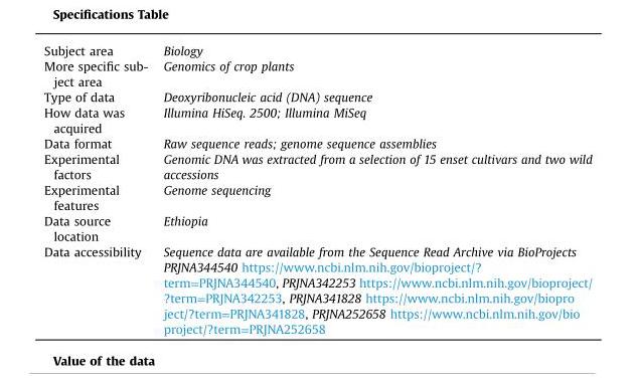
<table><tbody><tr><td>Subject area</td><td>Biology</td></tr><tr><td>More specific sub- ject area</td><td>Genomics of crop plants</td></tr><tr><td>Type of data</td><td>Deoxyribonucleic acid (DNA) sequence</td></tr><tr><td>How data was acquired</td><td>Illumina HiSeq. 2500; Illumina MiSeq</td></tr><tr><td>Data format</td><td>Raw sequence reads; genome sequence assemblies</td></tr><tr><td>Experimental factors</td><td>Genomic DNA was extracted from a selection of 15 enset cultivars and two wild accessions</td></tr><tr><td>Experimental features</td><td>Genome sequencing</td></tr><tr><td>Data source location</td><td>Ethiopia</td></tr><tr><td>Data accessibility</td><td>Sequence data are available from the Sequence Read Archive via BioProjects PRJNA344540 https://www.ncbi.nlm.nih.gov/bioproject/? term=PRJNA344540, PRJNA342253 https://www.ncbi.nlm.nih.gov/bioproject/ ?term=PRJNA342253, PRJNA341828 https://www.ncbi.nlm.nih.gov/biopro ject/?term=PRJNA341828, PRJNA252658 https://www.ncbi.nlm.nih.gov/bio project/?term=PRJNA252658</td></tr></tbody></table>